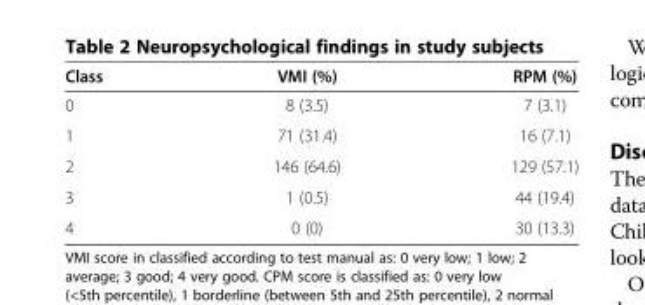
<table><thead><tr><td>Class</td><td>VMI (%)</td><td>RPM (%)</td></tr></thead><tbody><tr><td>0</td><td>8 (3.5)</td><td>7 (3.1)</td></tr><tr><td>1</td><td>71 (31.4)</td><td>16 (7.1)</td></tr><tr><td>2</td><td>146 (64.6)</td><td>129 (57.1)</td></tr><tr><td>3</td><td>1 (0.5)</td><td>44 (19.4)</td></tr><tr><td>4</td><td>0 (0)</td><td>30 (13.3)</td></tr></tbody></table>